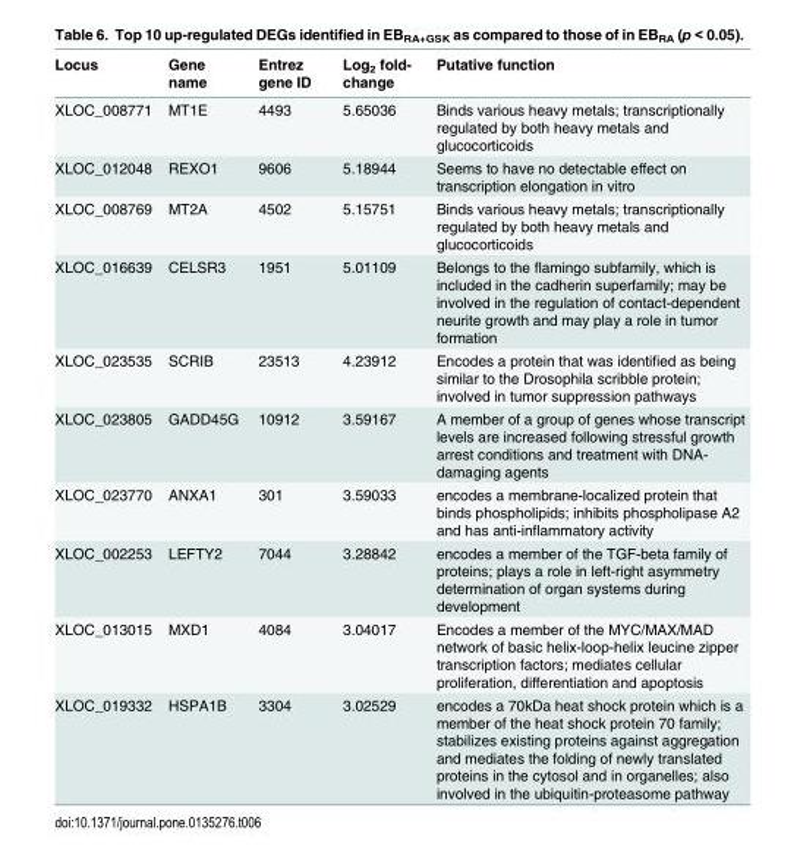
<table><thead><tr><td>Locus</td><td>Gene name</td><td>Entrez gene ID</td><td>Log<sub>2</sub> fold- change</td><td>Putative function</td></tr></thead><tbody><tr><td>XLOC_008771</td><td>MT1E</td><td>4493</td><td>5.65036</td><td>Binds various heavy metals; transcriptionally regulated by both heavy metals and glucocorticoids</td></tr><tr><td>XLOC_012048</td><td>REXO1</td><td>9606</td><td>5.18944</td><td>Seems to have no detectable effect on transcription elongation in vitro</td></tr><tr><td>XLOC_008769</td><td>MT2A</td><td>4502</td><td>5.15751</td><td>Binds various heavy metals; transcriptionally regulated by both heavy metals and glucocorticoids</td></tr><tr><td>XLOC_016639</td><td>CELSR3</td><td>1951</td><td>5.01109</td><td>Belongs to the flamingo subfamily, which is included in the cadherin superfamily; may be involved in the regulation of contact-dependent neurite growth and may play a role in tumor formation</td></tr><tr><td>XLOC_023535</td><td>SCRIB</td><td>23513</td><td>4.23912</td><td>Encodes a protein that was identified as being similar to the Drosophila scribble protein; involved in tumor suppression pathways</td></tr><tr><td>XLOC_023805</td><td>GADD45G</td><td>10912</td><td>3.59167</td><td>A member of a group of genes whose transcript levels are increased following stressful growth arrest conditions and treatment with DNA- damaging agents</td></tr><tr><td>XLOC_023770</td><td>ANXA1</td><td>301</td><td>3.59033</td><td>encodes a membrane-localized protein that binds phospholipids; inhibits phospholipase A2 and has anti-inflammatory activity</td></tr><tr><td>XLOC_002253</td><td>LEFTY2</td><td>7044</td><td>3.28842</td><td>encodes a member of the TGF-beta family of proteins; plays a role in left-right asymmetry determination of organ systems during development</td></tr><tr><td>XLOC_013015</td><td>MXD1</td><td>4084</td><td>3.04017</td><td>Encodes a member of the MYC/MAX/MAD network of basic helix-loop-helix leucine zipper transcription factors; mediates cellular proliferation, differentiation and apoptosis</td></tr><tr><td>XLOC_019332</td><td>HSPA1B</td><td>3304</td><td>3.02529</td><td>encodes a 70kDa heat shock protein which is a member of the heat shock protein 70 family; stabilizes existing proteins against aggregation and mediates the folding of newly translated proteins in the cytosol and in organelles; also involved in the ubiquitin-proteasome pathway</td></tr></tbody></table>